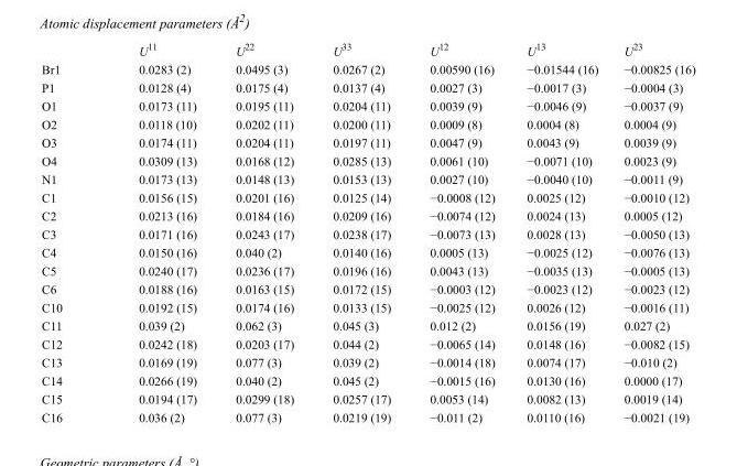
<table><thead><tr><td></td><td>U<sup>11</sup></td><td>U<sup>22</sup></td><td>U<sup>33</sup></td><td>U<sup>12</sup></td><td>U<sup>13</sup></td><td>U<sup>23</sup></td></tr></thead><tbody><tr><td>Br1</td><td>0.0283 (2)</td><td>0.0495 (3)</td><td>0.0267 (2)</td><td>0.00590 (16)</td><td>−0.01544 (16)</td><td>−0.00825 (16)</td></tr><tr><td>P1</td><td>0.0128 (4)</td><td>0.0175 (4)</td><td>0.0137 (4)</td><td>0.0027 (3)</td><td>−0.0017 (3)</td><td>−0.0004 (3)</td></tr><tr><td>O1</td><td>0.0173 (11)</td><td>0.0195 (11)</td><td>0.0204 (11)</td><td>0.0039 (9)</td><td>−0.0046 (9)</td><td>−0.0037 (9)</td></tr><tr><td>O2</td><td>0.0118 (10)</td><td>0.0202 (11)</td><td>0.0200 (11)</td><td>0.0009 (8)</td><td>0.0004 (8)</td><td>0.0004 (9)</td></tr><tr><td>O3</td><td>0.0174 (11)</td><td>0.0204 (11)</td><td>0.0197 (11)</td><td>0.0047 (9)</td><td>0.0043 (9)</td><td>0.0039 (9)</td></tr><tr><td>O4</td><td>0.0309 (13)</td><td>0.0168 (12)</td><td>0.0285 (13)</td><td>0.0061 (10)</td><td>−0.0071 (10)</td><td>0.0023 (9)</td></tr><tr><td>N1</td><td>0.0173 (13)</td><td>0.0148 (13)</td><td>0.0153 (13)</td><td>0.0027 (10)</td><td>−0.0040 (10)</td><td>−0.0011 (9)</td></tr><tr><td>C1</td><td>0.0156 (15)</td><td>0.0201 (16)</td><td>0.0125 (14)</td><td>−0.0008 (12)</td><td>0.0025 (12)</td><td>−0.0010 (12)</td></tr><tr><td>C2</td><td>0.0213 (16)</td><td>0.0184 (16)</td><td>0.0209 (16)</td><td>−0.0074 (12)</td><td>0.0024 (13)</td><td>0.0005 (12)</td></tr><tr><td>C3</td><td>0.0171 (16)</td><td>0.0243 (17)</td><td>0.0238 (17)</td><td>−0.0073 (13)</td><td>0.0028 (13)</td><td>−0.0050 (13)</td></tr><tr><td>C4</td><td>0.0150 (16)</td><td>0.040 (2)</td><td>0.0140 (16)</td><td>0.0005 (13)</td><td>−0.0025 (12)</td><td>−0.0076 (13)</td></tr><tr><td>C5</td><td>0.0240 (17)</td><td>0.0236 (17)</td><td>0.0196 (16)</td><td>0.0043 (13)</td><td>−0.0035 (13)</td><td>−0.0005 (13)</td></tr><tr><td>C6</td><td>0.0188 (16)</td><td>0.0163 (15)</td><td>0.0172 (15)</td><td>−0.0003 (12)</td><td>−0.0023 (12)</td><td>−0.0023 (12)</td></tr><tr><td>C10</td><td>0.0192 (15)</td><td>0.0174 (16)</td><td>0.0133 (15)</td><td>−0.0025 (12)</td><td>0.0026 (12)</td><td>−0.0016 (11)</td></tr><tr><td>C11</td><td>0.039 (2)</td><td>0.062 (3)</td><td>0.045 (3)</td><td>0.012 (2)</td><td>0.0156 (19)</td><td>0.027 (2)</td></tr><tr><td>C12</td><td>0.0242 (18)</td><td>0.0203 (17)</td><td>0.044 (2)</td><td>−0.0065 (14)</td><td>0.0148 (16)</td><td>−0.0082 (15)</td></tr><tr><td>C13</td><td>0.0169 (19)</td><td>0.077 (3)</td><td>0.039 (2)</td><td>−0.0014 (18)</td><td>0.0074 (17)</td><td>−0.010 (2)</td></tr><tr><td>C14</td><td>0.0266 (19)</td><td>0.040 (2)</td><td>0.045 (2)</td><td>−0.0015 (16)</td><td>0.0130 (16)</td><td>0.0000 (17)</td></tr><tr><td>C15</td><td>0.0194 (17)</td><td>0.0299 (18)</td><td>0.0257 (17)</td><td>0.0053 (14)</td><td>0.0082 (13)</td><td>0.0019 (14)</td></tr><tr><td>C16</td><td>0.036 (2)</td><td>0.077 (3)</td><td>0.0219 (19)</td><td>−0.011 (2)</td><td>0.0110 (16)</td><td>−0.0021 (19)</td></tr></tbody></table>